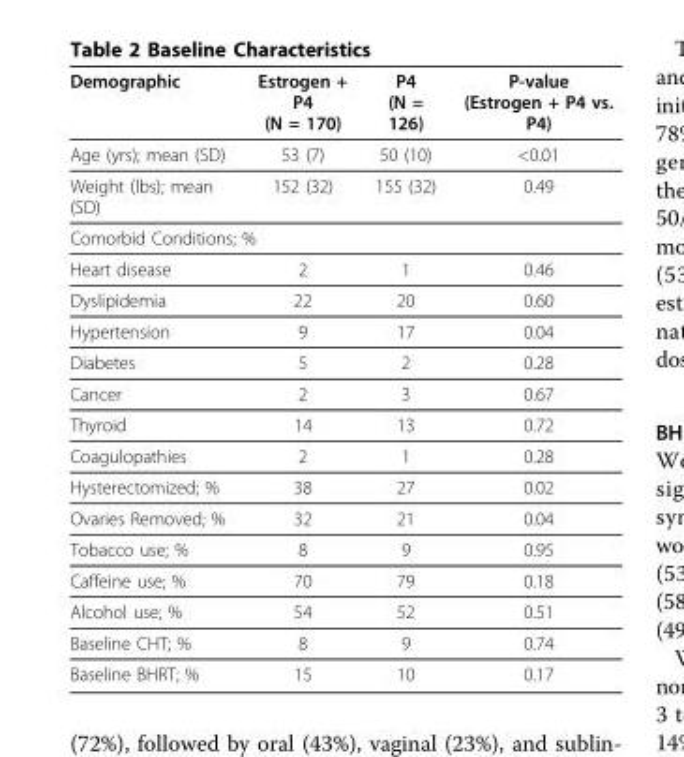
<table><thead><tr><td>Demographic</td><td>Estrogen + P4 (N = 170)</td><td>P4 (N = 126)</td><td>P-value (Estrogen + P4 vs. P4)</td></tr></thead><tbody><tr><td>Age (yrs); mean (SD)</td><td>53 (7)</td><td>50 (10)</td><td>&lt;0.01</td></tr><tr><td>Weight (lbs); mean (SD)</td><td>152 (32)</td><td>155 (32)</td><td>0.49</td></tr><tr><td colspan="4">Comorbid Conditions; %</td></tr><tr><td>Heart disease</td><td>2</td><td>1</td><td>0.46</td></tr><tr><td>Dyslipidemia</td><td>22</td><td>20</td><td>0.60</td></tr><tr><td>Hypertension</td><td>9</td><td>17</td><td>0.04</td></tr><tr><td>Diabetes</td><td>5</td><td>2</td><td>0.28</td></tr><tr><td>Cancer</td><td>2</td><td>3</td><td>0.67</td></tr><tr><td>Thyroid</td><td>14</td><td>13</td><td>0.72</td></tr><tr><td>Coagulopathies</td><td>2</td><td>1</td><td>0.28</td></tr><tr><td>Hysterectomized; %</td><td>38</td><td>27</td><td>0.02</td></tr><tr><td>Ovaries Removed; %</td><td>32</td><td>21</td><td>0.04</td></tr><tr><td>Tobacco use; %</td><td>8</td><td>9</td><td>0.95</td></tr><tr><td>Caffeine use; %</td><td>70</td><td>79</td><td>0.18</td></tr><tr><td>Alcohol use; %</td><td>54</td><td>52</td><td>0.51</td></tr><tr><td>Baseline CHT; %</td><td>8</td><td>9</td><td>0.74</td></tr><tr><td>Baseline BHRT; %</td><td>15</td><td>10</td><td>0.17</td></tr></tbody></table>